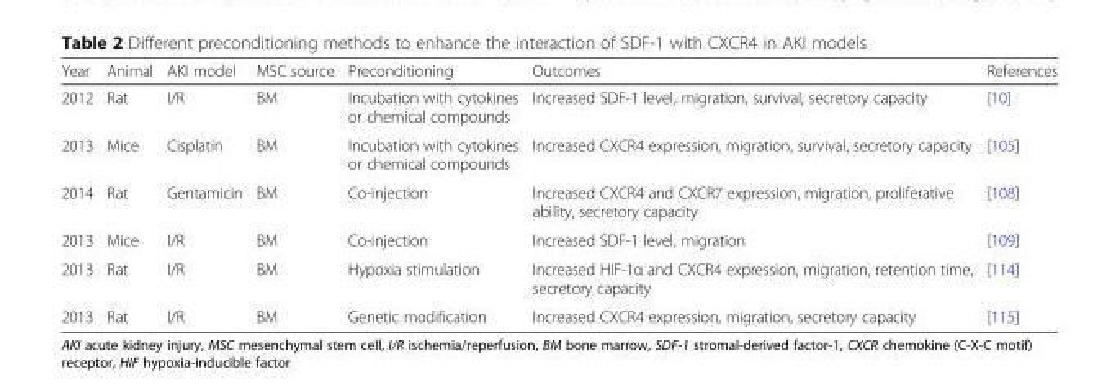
<table><thead><tr><td>Year</td><td>Animal</td><td>AKI model</td><td>MSC source</td><td>Preconditioning</td><td>Outcomes</td><td>References</td></tr></thead><tbody><tr><td>2012</td><td>Rat</td><td>I/R</td><td>BM</td><td>Incubation with cytokines or chemical compounds</td><td>Increased SDF-1 level, migration, survival, secretory capacity</td><td>[10]</td></tr><tr><td>2013</td><td>Mice</td><td>Cisplatin</td><td>BM</td><td>Incubation with cytokines or chemical compounds</td><td>Increased CXCR4 expression, migration, survival, secretory capacity</td><td>[105]</td></tr><tr><td>2014</td><td>Rat</td><td>Gentamicin</td><td>BM</td><td>Co-injection</td><td>Increased CXCR4 and CXCR7 expression, migration, proliferative ability, secretory capacity</td><td>[108]</td></tr><tr><td>2013</td><td>Mice</td><td>I/R</td><td>BM</td><td>Co-injection</td><td>Increased SDF-1 level, migration</td><td>[109]</td></tr><tr><td>2013</td><td>Rat</td><td>I/R</td><td>BM</td><td>Hypoxia stimulation</td><td>Increased HIF-1α and CXCR4 expression, migration, retention time, secretory capacity</td><td>[114]</td></tr><tr><td>2013</td><td>Rat</td><td>I/R</td><td>BM</td><td>Genetic modification</td><td>Increased CXCR4 expression, migration, secretory capacity</td><td>[115]</td></tr></tbody></table>